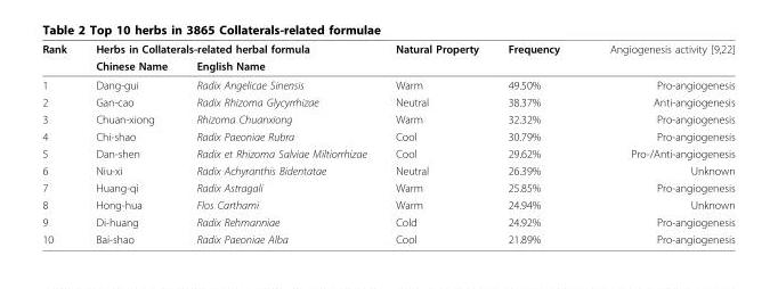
<table><thead><tr><td rowspan="2">Rank</td><td colspan="2">Herbs in Collaterals-related herbal formula</td><td rowspan="2">Natural Property</td><td rowspan="2">Frequency</td><td rowspan="2">Angiogenesis activity [9,22]</td></tr><tr><td>Chinese Name</td><td>English Name</td></tr></thead><tbody><tr><td>1</td><td>Dang-gui</td><td>Radix Angelicae Sinensis</td><td>Warm</td><td>49.50%</td><td>Pro-angiogenesis</td></tr><tr><td>2</td><td>Gan-cao</td><td>Radix Rhizoma Glycyrrhizae</td><td>Neutral</td><td>38.37%</td><td>Anti-angiogenesis</td></tr><tr><td>3</td><td>Chuan-xiong</td><td>Rhizoma Chuanxiong</td><td>Warm</td><td>32.32%</td><td>Pro-angiogenesis</td></tr><tr><td>4</td><td>Chi-shao</td><td>Radix Paeoniae Rubra</td><td>Cool</td><td>30.79%</td><td>Pro-angiogenesis</td></tr><tr><td>5</td><td>Dan-shen</td><td>Radix et Rhizoma Salviae Miltiorrhizae</td><td>Cool</td><td>29.62%</td><td>Pro-/Anti-angiogenesis</td></tr><tr><td>6</td><td>Niu-xi</td><td>Radix Achyranthis Bidentatae</td><td>Neutral</td><td>26.39%</td><td>Unknown</td></tr><tr><td>7</td><td>Huang-qi</td><td>Radix Astragali</td><td>Warm</td><td>25.85%</td><td>Pro-angiogenesis</td></tr><tr><td>8</td><td>Hong-hua</td><td>Flos Carthami</td><td>Warm</td><td>24.94%</td><td>Unknown</td></tr><tr><td>9</td><td>Di-huang</td><td>Radix Rehmanniae</td><td>Cold</td><td>24.92%</td><td>Pro-angiogenesis</td></tr><tr><td>10</td><td>Bai-shao</td><td>Radix Paeoniae Alba</td><td>Cool</td><td>21.89%</td><td>Pro-angiogenesis</td></tr></tbody></table>